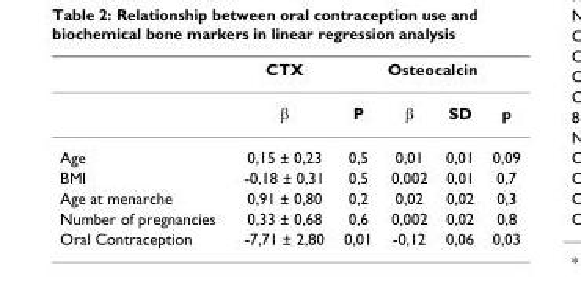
<table><thead><tr><td rowspan="2"></td><td rowspan="2">CTX β</td><td colspan="4">Osteocalcin</td></tr><tr><td>P</td><td>β</td><td>SD</td><td>p</td></tr></thead><tbody><tr><td>Age</td><td>0,15 ± 0,23</td><td>0,5</td><td>0,01</td><td>0,01</td><td>0,09</td></tr><tr><td>BMI</td><td>-0,18 ± 0,31</td><td>0,5</td><td>0,002</td><td>0,01</td><td>0,7</td></tr><tr><td>Age at menarche</td><td>0,91 ± 0,80</td><td>0,2</td><td>0,02</td><td>0,02</td><td>0,3</td></tr><tr><td>Number of pregnancies</td><td>0,33 ± 0,68</td><td>0,6</td><td>0,002</td><td>0,02</td><td>0,8</td></tr><tr><td>Oral Contraception</td><td>-7,71 ± 2,80</td><td>0,01</td><td>-0,12</td><td>0,06</td><td>0,03</td></tr></tbody></table>